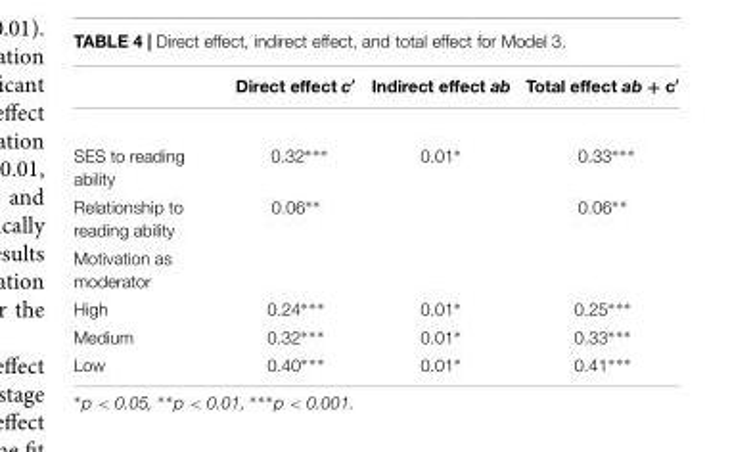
<table><thead><tr><td></td><td>Direct effect c′</td><td>Indirect effect ab</td><td>Total effect ab + c′</td></tr></thead><tbody><tr><td>SES to reading ability</td><td>0.32∗∗∗</td><td>0.01∗</td><td>0.33∗∗∗</td></tr><tr><td>Relationship to reading ability</td><td>0.06∗∗</td><td></td><td>0.06∗∗</td></tr><tr><td colspan="4">Motivation as moderator</td></tr><tr><td>High</td><td>0.24∗∗∗</td><td>0.01∗</td><td>0.25∗∗∗</td></tr><tr><td>Medium</td><td>0.32∗∗∗</td><td>0.01∗</td><td>0.33∗∗∗</td></tr><tr><td>Low</td><td>0.40∗∗∗</td><td>0.01∗</td><td>0.41∗∗∗</td></tr></tbody></table>